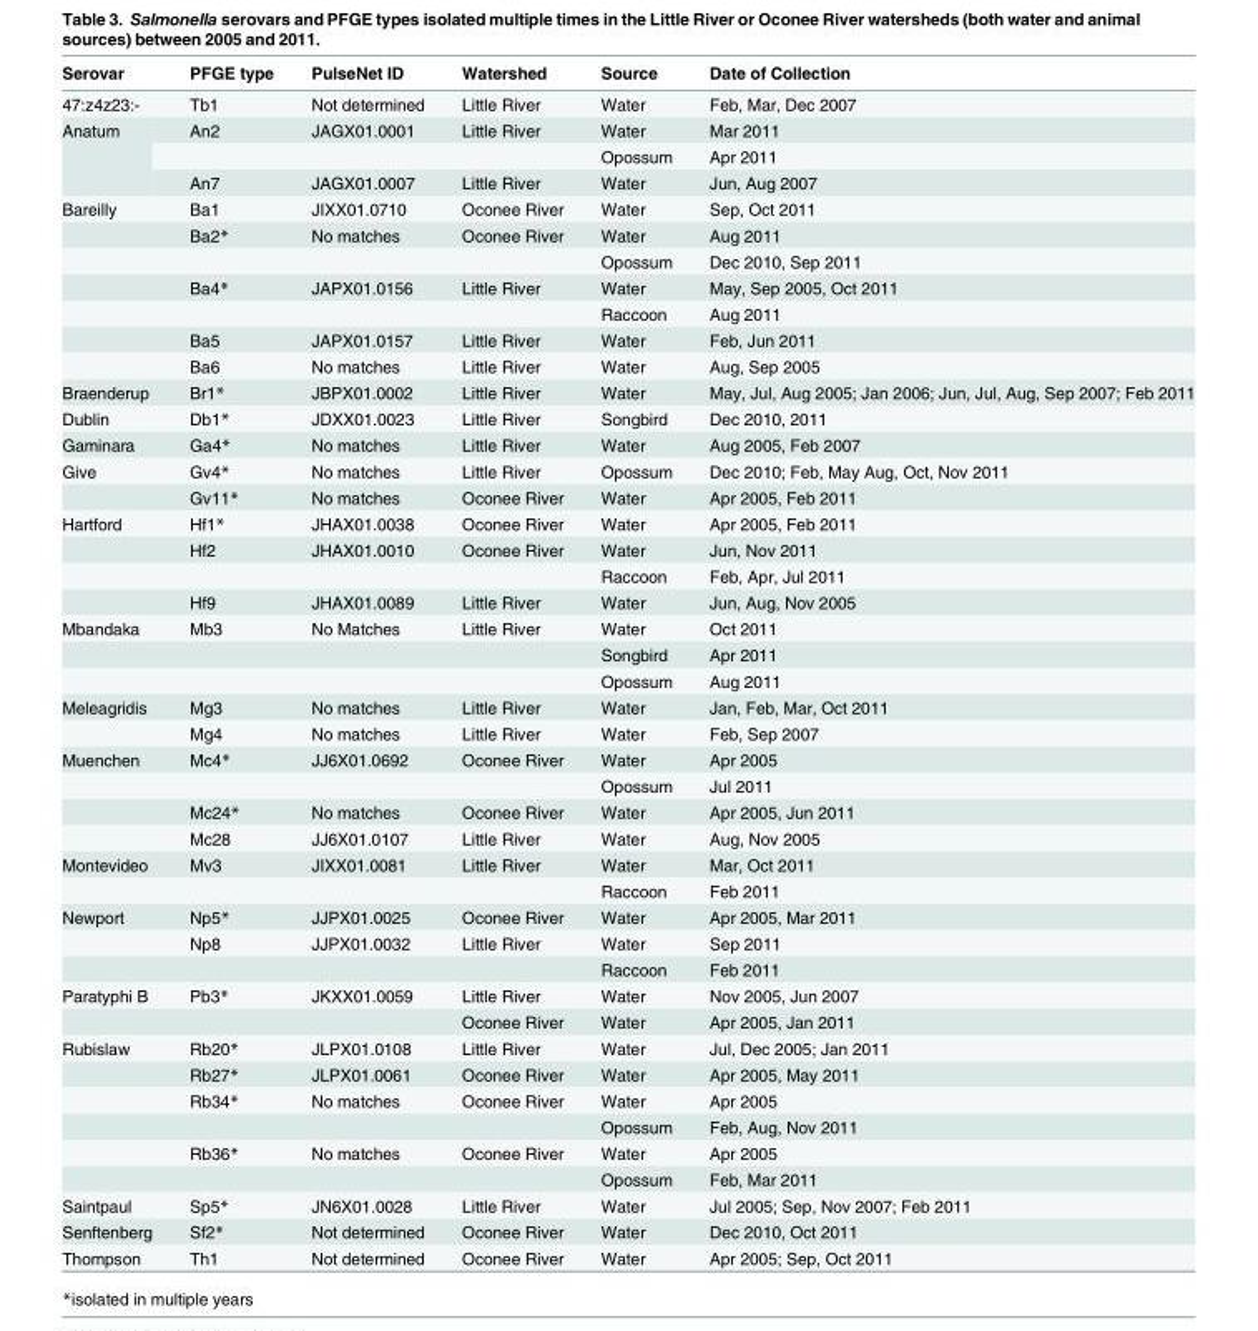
<table><thead><tr><td>Serovar</td><td>PFGE type</td><td>PulseNet ID</td><td>Watershed</td><td>Source</td><td>Date of Collection</td></tr></thead><tbody><tr><td>47:z4z23:-</td><td>Tb1</td><td>Not determined</td><td>Little River</td><td>Water</td><td>Feb, Mar, Dec 2007</td></tr><tr><td rowspan="3">Anatum</td><td>An2</td><td>JAGX01.0001</td><td>Little River</td><td>Water</td><td>Mar 2011</td></tr><tr><td></td><td></td><td></td><td>Opossum</td><td>Apr 2011</td></tr><tr><td>An7</td><td>JAGX01.0007</td><td>Little River</td><td>Water</td><td>Jun, Aug 2007</td></tr><tr><td rowspan="7">Bareilly</td><td>Ba1</td><td>JIXX01.0710</td><td>Oconee River</td><td>Water</td><td>Sep, Oct 2011</td></tr><tr><td>Ba2*</td><td>No matches</td><td>Oconee River</td><td>Water</td><td>Aug 2011</td></tr><tr><td></td><td></td><td></td><td>Opossum</td><td>Dec 2010, Sep 2011</td></tr><tr><td>Ba4*</td><td>JAPX01.0156</td><td>Little River</td><td>Water</td><td>May, Sep 2005, Oct 2011</td></tr><tr><td></td><td></td><td></td><td>Raccoon</td><td>Aug 2011</td></tr><tr><td>Ba5</td><td>JAPX01.0157</td><td>Little River</td><td>Water</td><td>Feb, Jun 2011</td></tr><tr><td>Ba6</td><td>No matches</td><td>Little River</td><td>Water</td><td>Aug, Sep 2005</td></tr><tr><td>Braenderup</td><td>Br1*</td><td>JBPX01.0002</td><td>Little River</td><td>Water</td><td>May, Jul, Aug 2005; Jan 2006; Jun, Jul, Aug, Sep 2007; Feb 2011</td></tr><tr><td>Dublin</td><td>Db1*</td><td>JDXX01.0023</td><td>Little River</td><td>Songbird</td><td>Dec 2010, 2011</td></tr><tr><td>Gaminara</td><td>Ga4*</td><td>No matches</td><td>Little River</td><td>Water</td><td>Aug 2005, Feb 2007</td></tr><tr><td rowspan="2">Give</td><td>Gv4*</td><td>No matches</td><td>Little River</td><td>Opossum</td><td>Dec 2010; Feb, May Aug, Oct, Nov 2011</td></tr><tr><td>Gv11*</td><td>No matches</td><td>Oconee River</td><td>Water</td><td>Apr 2005, Feb 2011</td></tr><tr><td rowspan="4">Hartford</td><td>Hf1*</td><td>JHAX01.0038</td><td>Oconee River</td><td>Water</td><td>Apr 2005, Feb 2011</td></tr><tr><td>Hf2</td><td>JHAX01.0010</td><td>Oconee River</td><td>Water</td><td>Jun, Nov 2011</td></tr><tr><td></td><td></td><td></td><td>Raccoon</td><td>Feb, Apr, Jul 2011</td></tr><tr><td>Hf9</td><td>JHAX01.0089</td><td>Little River</td><td>Water</td><td>Jun, Aug, Nov 2005</td></tr><tr><td rowspan="3">Mbandaka</td><td>Mb3</td><td>No Matches</td><td>Little River</td><td>Water</td><td>Oct 2011</td></tr><tr><td></td><td></td><td></td><td>Songbird</td><td>Apr 2011</td></tr><tr><td></td><td></td><td></td><td>Opossum</td><td>Aug 2011</td></tr><tr><td rowspan="2">Meleagridis</td><td>Mg3</td><td>No matches</td><td>Little River</td><td>Water</td><td>Jan, Feb, Mar, Oct 2011</td></tr><tr><td>Mg4</td><td>No matches</td><td>Little River</td><td>Water</td><td>Feb, Sep 2007</td></tr><tr><td rowspan="4">Muenchen</td><td>Mc4*</td><td>JJ6X01.0692</td><td>Oconee River</td><td>Water</td><td>Apr 2005</td></tr><tr><td></td><td></td><td></td><td>Opossum</td><td>Jul 2011</td></tr><tr><td>Mc24*</td><td>No matches</td><td>Oconee River</td><td>Water</td><td>Apr 2005, Jun 2011</td></tr><tr><td>Mc28</td><td>JJ6X01.0107</td><td>Little River</td><td>Water</td><td>Aug, Nov 2005</td></tr><tr><td rowspan="2">Montevideo</td><td>Mv3</td><td>JIXX01.0081</td><td>Little River</td><td>Water</td><td>Mar, Oct 2011</td></tr><tr><td></td><td></td><td></td><td>Raccoon</td><td>Feb 2011</td></tr><tr><td rowspan="3">Newport</td><td>Np5*</td><td>JJPX01.0025</td><td>Oconee River</td><td>Water</td><td>Apr 2005, Mar 2011</td></tr><tr><td>Np8</td><td>JJPX01.0032</td><td>Little River</td><td>Water</td><td>Sep 2011</td></tr><tr><td></td><td></td><td></td><td>Raccoon</td><td>Feb 2011</td></tr><tr><td rowspan="2">Paratyphi B</td><td>Pb3*</td><td>JKXX01.0059</td><td>Little River</td><td>Water</td><td>Nov 2005, Jun 2007</td></tr><tr><td></td><td></td><td>Oconee River</td><td>Water</td><td>Apr 2005, Jan 2011</td></tr><tr><td rowspan="6">Rubislaw</td><td>Rb20*</td><td>JLPX01.0108</td><td>Little River</td><td>Water</td><td>Jul, Dec 2005; Jan 2011</td></tr><tr><td>Rb27*</td><td>JLPX01.0061</td><td>Oconee River</td><td>Water</td><td>Apr 2005, May 2011</td></tr><tr><td>Rb34*</td><td>No matches</td><td>Oconee River</td><td>Water</td><td>Apr 2005</td></tr><tr><td></td><td></td><td></td><td>Opossum</td><td>Feb, Aug, Nov 2011</td></tr><tr><td>Rb36*</td><td>No matches</td><td>Oconee River</td><td>Water</td><td>Apr 2005</td></tr><tr><td></td><td></td><td></td><td>Opossum</td><td>Feb, Mar 2011</td></tr><tr><td>Saintpaul</td><td>Sp5*</td><td>JN6X01.0028</td><td>Little River</td><td>Water</td><td>Jul 2005; Sep, Nov 2007; Feb 2011</td></tr><tr><td>Senftenberg</td><td>Sf2*</td><td>Not determined</td><td>Oconee River</td><td>Water</td><td>Dec 2010, Oct 2011</td></tr><tr><td>Thompson</td><td>Th1</td><td>Not determined</td><td>Oconee River</td><td>Water</td><td>Apr 2005; Sep, Oct 2011</td></tr></tbody></table>